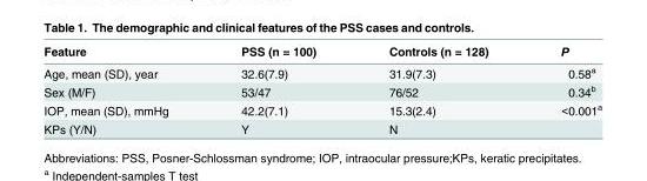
<table><thead><tr><td>Feature</td><td>PSS (n = 100)</td><td>Controls (n = 128)</td><td>P</td></tr></thead><tbody><tr><td>Age, mean (SD), year</td><td>32.6(7.9)</td><td>31.9(7.3)</td><td>0.58<sup>a</sup></td></tr><tr><td>Sex (M/F)</td><td>53/47</td><td>76/52</td><td>0.34<sup>b</sup></td></tr><tr><td>IOP, mean (SD), mmHg</td><td>42.2(7.1)</td><td>15.3(2.4)</td><td>&lt;0.001<sup>a</sup></td></tr><tr><td>KPs (Y/N)</td><td>Y</td><td>N</td><td></td></tr></tbody></table>